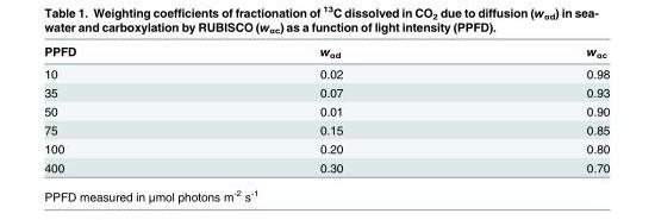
<table><thead><tr><td>PPFD</td><td>w<sub>αd</sub></td><td>w<sub>αc</sub></td></tr></thead><tbody><tr><td>10</td><td>0.02</td><td>0.98</td></tr><tr><td>35</td><td>0.07</td><td>0.93</td></tr><tr><td>50</td><td>0.01</td><td>0.90</td></tr><tr><td>75</td><td>0.15</td><td>0.85</td></tr><tr><td>100</td><td>0.20</td><td>0.80</td></tr><tr><td>400</td><td>0.30</td><td>0.70</td></tr></tbody></table>